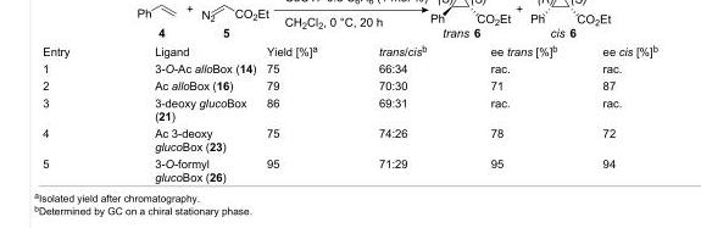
<table><tbody><tr><td>Entry</td><td>Ligand</td><td>Yield [%]<sup>a</sup></td><td>trans/cis<sup>b</sup></td><td>ee trans [%]<sup>b</sup></td><td>ee cis [%]<sup>b</sup></td></tr><tr><td>1</td><td>3-O-Ac alloBox (14)</td><td>75</td><td>66:34</td><td>rac.</td><td>rac.</td></tr><tr><td>2</td><td>Ac alloBox (16)</td><td>79</td><td>70:30</td><td>71</td><td>87</td></tr><tr><td>3</td><td>3-deoxy glucoBox (21)</td><td>86</td><td>69:31</td><td>rac.</td><td>rac.</td></tr><tr><td>4</td><td>Ac 3-deoxy glucoBox (23)</td><td>75</td><td>74:26</td><td>78</td><td>72</td></tr><tr><td>5</td><td>3-O-formyl glucoBox (26)</td><td>95</td><td>71:29</td><td>95</td><td>94</td></tr></tbody></table>